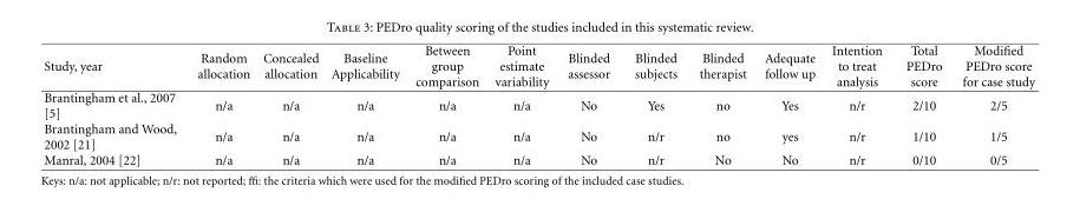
<table><thead><tr><td>Study, year</td><td>Random allocation</td><td>Concealed allocation</td><td>Baseline Applicability</td><td>Between group comparison</td><td>Point estimate variability</td><td>Blinded assessor</td><td>Blinded subjects</td><td>Blinded therapist</td><td>Adequate follow up</td><td>Intention to treat analysis</td><td>Total PEDro score</td><td>Modified PEDro score for case study</td></tr></thead><tbody><tr><td>Brantingham et al., 2007 [5]</td><td>n/a</td><td>n/a</td><td>n/a</td><td>n/a</td><td>n/a</td><td>No</td><td>Yes</td><td>no</td><td>Yes</td><td>n/r</td><td>2/10</td><td>2/5</td></tr><tr><td>Brantingham and Wood, 2002 [21]</td><td>n/a</td><td>n/a</td><td>n/a</td><td>n/a</td><td>n/a</td><td>No</td><td>n/r</td><td>no</td><td>yes</td><td>n/r</td><td>1/10</td><td>1/5</td></tr><tr><td>Manral, 2004 [22]</td><td>n/a</td><td>n/a</td><td>n/a</td><td>n/a</td><td>n/a</td><td>No</td><td>n/r</td><td>No</td><td>No</td><td>n/r</td><td>0/10</td><td>0/5</td></tr></tbody></table>